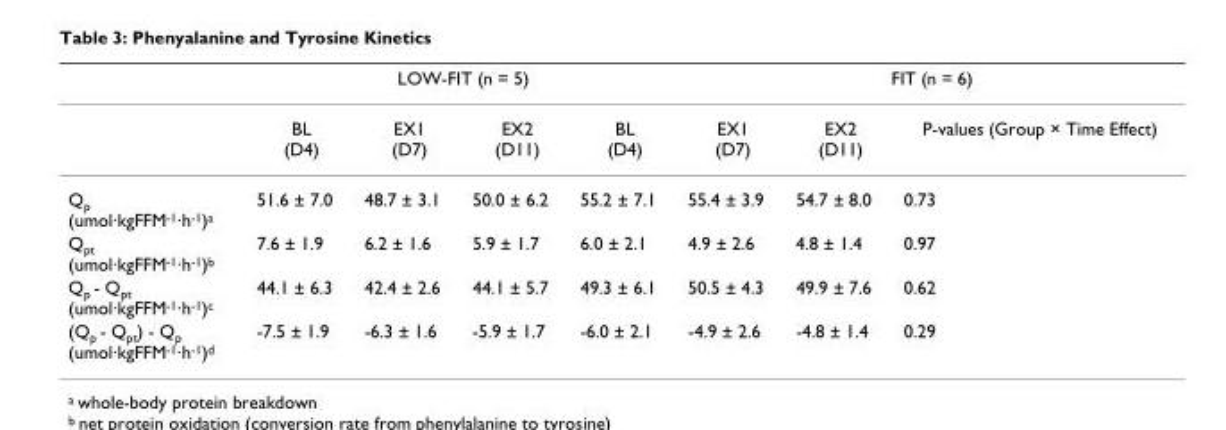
<table><thead><tr><td rowspan="2"></td><td colspan="4">LOW-FIT (n = 5)</td><td colspan="3">FIT (n = 6)</td></tr><tr><td>BL (D4)</td><td>EX1 (D7)</td><td>EX2 (D11)</td><td>BL (D4)</td><td>EX1 (D7)</td><td>EX2 (D11)</td><td>P-values (Group × Time Effect)</td></tr></thead><tbody><tr><td>Q<sub>p</sub> (umol·kgFFM<sup>-1</sup>·h<sup>-1</sup>)<sup>a</sup></td><td>51.6 ± 7.0</td><td>48.7 ± 3.1</td><td>50.0 ± 6.2</td><td>55.2 ± 7.1</td><td>55.4 ± 3.9</td><td>54.7 ± 8.0</td><td>0.73</td></tr><tr><td>Q<sub>pt</sub> (umol·kgFFM<sup>-1</sup>·h<sup>-1</sup>)<sup>b</sup></td><td>7.6 ± 1.9</td><td>6.2 ± 1.6</td><td>5.9 ± 1.7</td><td>6.0 ± 2.1</td><td>4.9 ± 2.6</td><td>4.8 ± 1.4</td><td>0.97</td></tr><tr><td>Q<sub>p</sub> - Q<sub>pt</sub> (umol·kgFFM<sup>-1</sup>·h<sup>-1</sup>)<sup>c</sup></td><td>44.1 ± 6.3</td><td>42.4 ± 2.6</td><td>44.1 ± 5.7</td><td>49.3 ± 6.1</td><td>50.5 ± 4.3</td><td>49.9 ± 7.6</td><td>0.62</td></tr><tr><td>(Q<sub>p</sub> - Q<sub>pt</sub>) - Q<sub>p</sub> (umol·kgFFM<sup>-1</sup>·h<sup>-1</sup>)<sup>d</sup></td><td>-7.5 ± 1.9</td><td>-6.3 ± 1.6</td><td>-5.9 ± 1.7</td><td>-6.0 ± 2.1</td><td>-4.9 ± 2.6</td><td>-4.8 ± 1.4</td><td>0.29</td></tr></tbody></table>